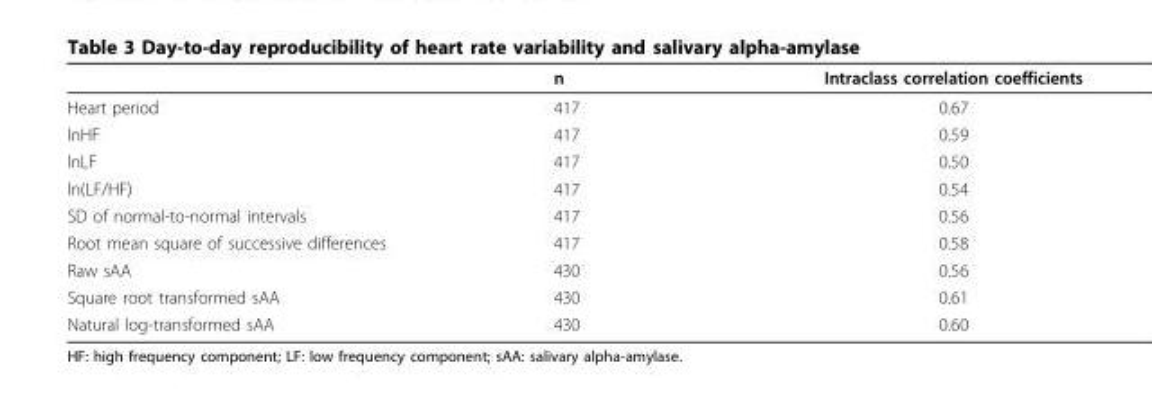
<table><thead><tr><td></td><td>n</td><td>Intraclass correlation coefficients</td></tr></thead><tbody><tr><td>Heart period</td><td>417</td><td>0.67</td></tr><tr><td>lnHF</td><td>417</td><td>0.59</td></tr><tr><td>lnLF</td><td>417</td><td>0.50</td></tr><tr><td>ln(LF/HF)</td><td>417</td><td>0.54</td></tr><tr><td>SD of normal-to-normal intervals</td><td>417</td><td>0.56</td></tr><tr><td>Root mean square of successive differences</td><td>417</td><td>0.58</td></tr><tr><td>Raw sAA</td><td>430</td><td>0.56</td></tr><tr><td>Square root transformed sAA</td><td>430</td><td>0.61</td></tr><tr><td>Natural log-transformed sAA</td><td>430</td><td>0.60</td></tr></tbody></table>